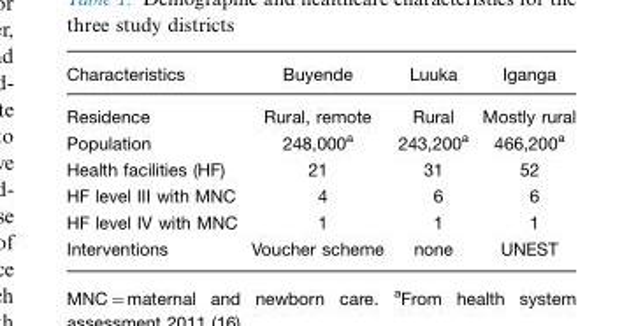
<table><thead><tr><td>Characteristics</td><td>Buyende</td><td>Luuka</td><td>Iganga</td></tr></thead><tbody><tr><td>Residence</td><td>Rural, remote</td><td>Rural</td><td>Mostly rural</td></tr><tr><td>Population</td><td>248,000a</td><td>243,200a</td><td>466,200a</td></tr><tr><td>Health facilities (HF)</td><td>21</td><td>31</td><td>52</td></tr><tr><td>HF level III with MNC</td><td>4</td><td>6</td><td>6</td></tr><tr><td>HF level IV with MNC</td><td>1</td><td>1</td><td>1</td></tr><tr><td>Interventions</td><td>Voucher scheme</td><td>none</td><td>UNEST</td></tr></tbody></table>